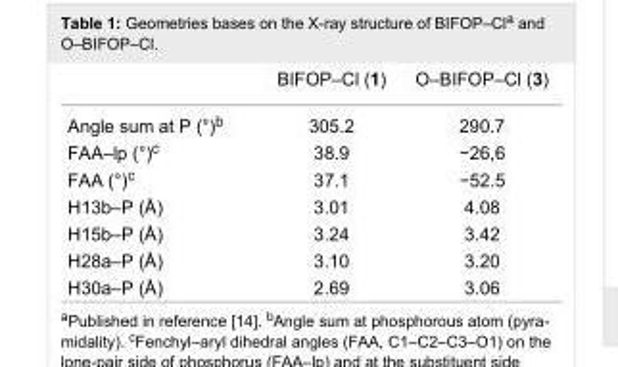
<table><thead><tr><td></td><td>BIFOP–Cl (1)</td><td>O–BIFOP–Cl (3)</td></tr></thead><tbody><tr><td>Angle sum at P (°)<sup>b</sup></td><td>305.2</td><td>290.7</td></tr><tr><td>FAA–lp (°)<sup>c</sup></td><td>38.9</td><td>−26,6</td></tr><tr><td>FAA (°)<sup>c</sup></td><td>37.1</td><td>−52.5</td></tr><tr><td>H13b–P (Å)</td><td>3.01</td><td>4.08</td></tr><tr><td>H15b–P (Å)</td><td>3.24</td><td>3.42</td></tr><tr><td>H28a–P (Å)</td><td>3.10</td><td>3.20</td></tr><tr><td>H30a–P (Å)</td><td>2.69</td><td>3.06</td></tr></tbody></table>